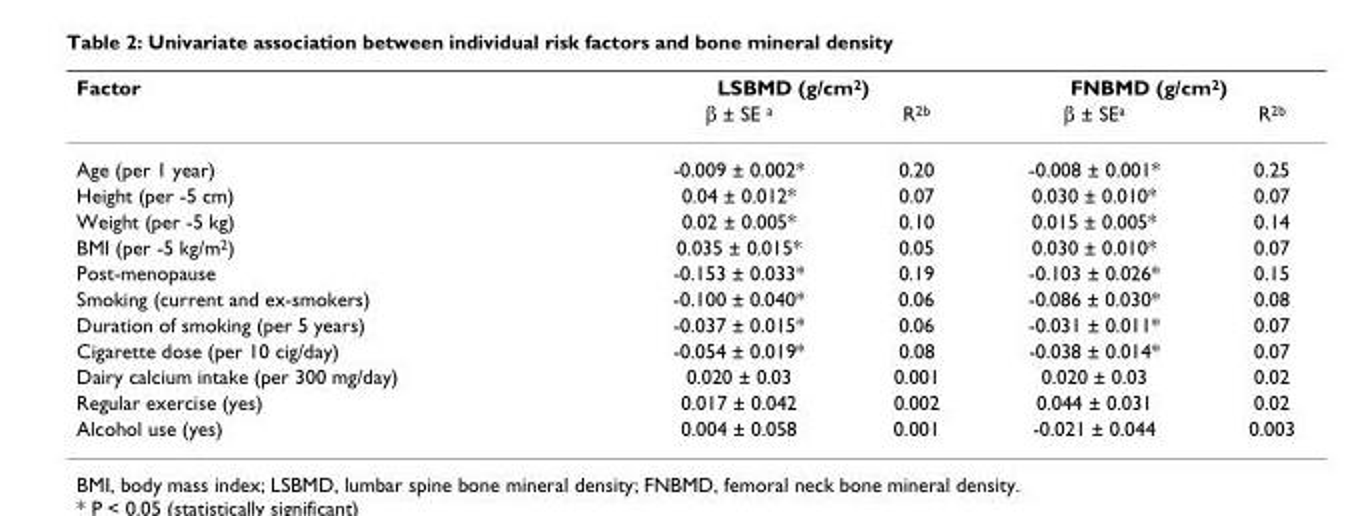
<table><thead><tr><td rowspan="2">Factor</td><td colspan="2">LSBMD (g/cm<sup>2</sup>)</td><td colspan="2">FNBMD (g/cm<sup>2</sup>)</td></tr><tr><td>β ± SE <sup>a</sup></td><td>R<sup>2b</sup></td><td>β ± SE<sup>a</sup></td><td>R<sup>2b</sup></td></tr></thead><tbody><tr><td>Age (per 1 year)</td><td>-0.009 ± 0.002*</td><td>0.20</td><td>-0.008 ± 0.001*</td><td>0.25</td></tr><tr><td>Height (per -5 cm)</td><td>0.04 ± 0.012*</td><td>0.07</td><td>0.030 ± 0.010*</td><td>0.07</td></tr><tr><td>Weight (per -5 kg)</td><td>0.02 ± 0.005*</td><td>0.10</td><td>0.015 ± 0.005*</td><td>0.14</td></tr><tr><td>BMI (per -5 kg/m<sup>2</sup>)</td><td>0.035 ± 0.015*</td><td>0.05</td><td>0.030 ± 0.010*</td><td>0.07</td></tr><tr><td>Post-menopause</td><td>-0.153 ± 0.033*</td><td>0.19</td><td>-0.103 ± 0.026*</td><td>0.15</td></tr><tr><td>Smoking (current and ex-smokers)</td><td>-0.100 ± 0.040*</td><td>0.06</td><td>-0.086 ± 0.030*</td><td>0.08</td></tr><tr><td>Duration of smoking (per 5 years)</td><td>-0.037 ± 0.015*</td><td>0.06</td><td>-0.031 ± 0.011*</td><td>0.07</td></tr><tr><td>Cigarette dose (per 10 cig/day)</td><td>-0.054 ± 0.019*</td><td>0.08</td><td>-0.038 ± 0.014*</td><td>0.07</td></tr><tr><td>Dairy calcium intake (per 300 mg/day)</td><td>0.020 ± 0.03</td><td>0.001</td><td>0.020 ± 0.03</td><td>0.02</td></tr><tr><td>Regular exercise (yes)</td><td>0.017 ± 0.042</td><td>0.002</td><td>0.044 ± 0.031</td><td>0.02</td></tr><tr><td>Alcohol use (yes)</td><td>0.004 ± 0.058</td><td>0.001</td><td>-0.021 ± 0.044</td><td>0.003</td></tr></tbody></table>